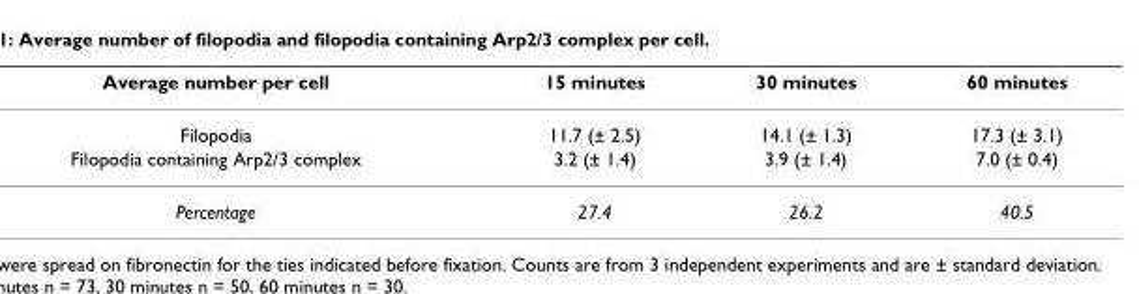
<table><thead><tr><td>Average number per cell</td><td>15 minutes</td><td>30 minutes</td><td>60 minutes</td></tr></thead><tbody><tr><td>Filopodia</td><td>11.7 (± 2.5)</td><td>14.1 (± 1.3)</td><td>17.3 (± 3.1)</td></tr><tr><td>Filopodia containing Arp2/3 complex</td><td>3.2 (± 1.4)</td><td>3.9 (± 1.4)</td><td>7.0 (± 0.4)</td></tr><tr><td>Percentage</td><td>27.4</td><td>26.2</td><td>40.5</td></tr></tbody></table>